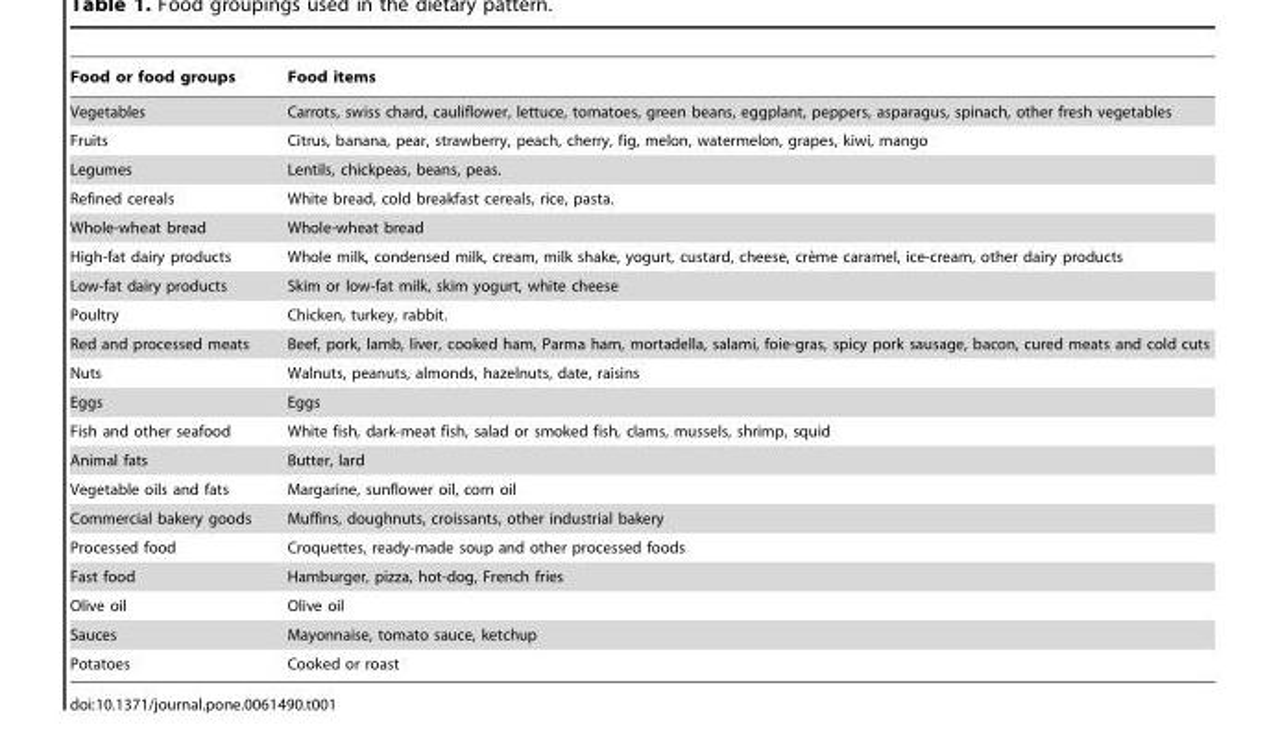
<table><thead><tr><td>Food or food groups</td><td>Food items</td></tr></thead><tbody><tr><td>Vegetables</td><td>Carrots, swiss chard, cauliflower, lettuce, tomatoes, green beans, eggplant, peppers, asparagus, spinach, other fresh vegetables</td></tr><tr><td>Fruits</td><td>Citrus, banana, pear, strawberry, peach, cherry, fig, melon, watermelon, grapes, kiwi, mango</td></tr><tr><td>Legumes</td><td>Lentils, chickpeas, beans, peas.</td></tr><tr><td>Refined cereals</td><td>White bread, cold breakfast cereals, rice, pasta.</td></tr><tr><td>Whole-wheat bread</td><td>Whole-wheat bread</td></tr><tr><td>High-fat dairy products</td><td>Whole milk, condensed milk, cream, milk shake, yogurt, custard, cheese, cre`me caramel, ice-cream, other dairy products</td></tr><tr><td>Low-fat dairy products</td><td>Skim or low-fat milk, skim yogurt, white cheese</td></tr><tr><td>Poultry</td><td>Chicken, turkey, rabbit.</td></tr><tr><td>Red and processed meats</td><td>Beef, pork, lamb, liver, cooked ham, Parma ham, mortadella, salami, foie-gras, spicy pork sausage, bacon, cured meats and cold cuts</td></tr><tr><td>Nuts</td><td>Walnuts, peanuts, almonds, hazelnuts, date, raisins</td></tr><tr><td>Eggs</td><td>Eggs</td></tr><tr><td>Fish and other seafood</td><td>White fish, dark-meat fish, salad or smoked fish, clams, mussels, shrimp, squid</td></tr><tr><td>Animal fats</td><td>Butter, lard</td></tr><tr><td>Vegetable oils and fats</td><td>Margarine, sunflower oil, corn oil</td></tr><tr><td>Commercial bakery goods</td><td>Muffins, doughnuts, croissants, other industrial bakery</td></tr><tr><td>Processed food</td><td>Croquettes, ready-made soup and other processed foods</td></tr><tr><td>Fast food</td><td>Hamburger, pizza, hot-dog, French fries</td></tr><tr><td>Olive oil</td><td>Olive oil</td></tr><tr><td>Sauces</td><td>Mayonnaise, tomato sauce, ketchup</td></tr><tr><td>Potatoes</td><td>Cooked or roast</td></tr></tbody></table>